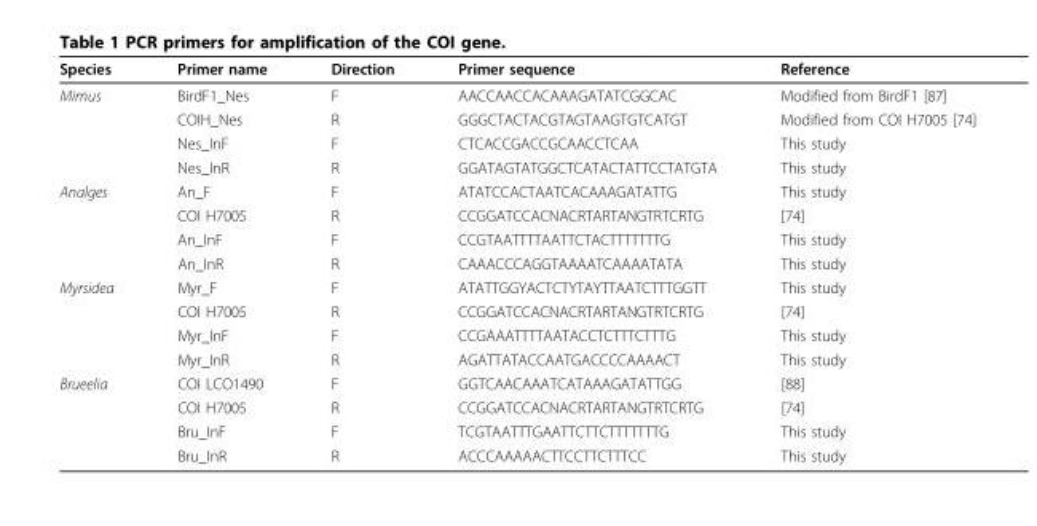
<table><thead><tr><td>Species</td><td>Primer name</td><td>Direction</td><td>Primer sequence</td><td>Reference</td></tr></thead><tbody><tr><td rowspan="4">Mimus</td><td>BirdF1_Nes</td><td>F</td><td>AACCAACCACAAAGATATCGGCAC</td><td>Modified from BirdF1 [87]</td></tr><tr><td>COIH_Nes</td><td>R</td><td>GGGCTACTACGTAGTAAGTGTCATGT</td><td>Modified from COI H7005 [74]</td></tr><tr><td>Nes_InF</td><td>F</td><td>CTCACCGACCGCAACCTCAA</td><td>This study</td></tr><tr><td>Nes_InR</td><td>R</td><td>GGATAGTATGGCTCATACTATTCCTATGTA</td><td>This study</td></tr><tr><td rowspan="4">Analges</td><td>An_F</td><td>F</td><td>ATATCCACTAATCACAAAGATATTG</td><td>This study</td></tr><tr><td>COI H7005</td><td>R</td><td>CCGGATCCACNACRTARTANGTRTCRTG</td><td>[74]</td></tr><tr><td>An_InF</td><td>F</td><td>CCGTAATTTTAATTCTACTTTTTTTG</td><td>This study</td></tr><tr><td>An_InR</td><td>R</td><td>CAAACCCAGGTAAAATCAAAATATA</td><td>This study</td></tr><tr><td rowspan="4">Myrsidea</td><td>Myr_F</td><td>F</td><td>ATATTGGYACTCTYTAYTTAATCTTTGGTT</td><td>This study</td></tr><tr><td>COI H7005</td><td>R</td><td>CCGGATCCACNACRTARTANGTRTCRTG</td><td>[74]</td></tr><tr><td>Myr_InF</td><td>F</td><td>CCGAAATTTTAATACCTCTTTCTTTG</td><td>This study</td></tr><tr><td>Myr_InR</td><td>R</td><td>AGATTATACCAATGACCCCAAAACT</td><td>This study</td></tr><tr><td rowspan="4">Brueelia</td><td>COI LCO1490</td><td>F</td><td>GGTCAACAAATCATAAAGATATTGG</td><td>[88]</td></tr><tr><td>COI H7005</td><td>R</td><td>CCGGATCCACNACRTARTANGTRTCRTG</td><td>[74]</td></tr><tr><td>Bru_InF</td><td>F</td><td>TCGTAATTTGAATTCTTCTTTTTTTG</td><td>This study</td></tr><tr><td>Bru_InR</td><td>R</td><td>ACCCAAAAACTTCCTTCTTTCC</td><td>This study</td></tr></tbody></table>